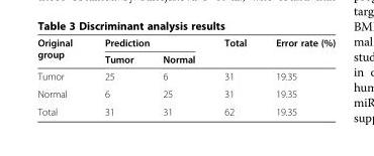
<table><thead><tr><td rowspan="2">Original group</td><td colspan="2">Prediction</td><td rowspan="2">Total</td><td rowspan="2">Error rate (%)</td></tr><tr><td>Tumor</td><td>Normal</td></tr></thead><tbody><tr><td>Tumor</td><td>25</td><td>6</td><td>31</td><td>19.35</td></tr><tr><td>Normal</td><td>6</td><td>25</td><td>31</td><td>19.35</td></tr><tr><td>Total</td><td>31</td><td>31</td><td>62</td><td>19.35</td></tr></tbody></table>